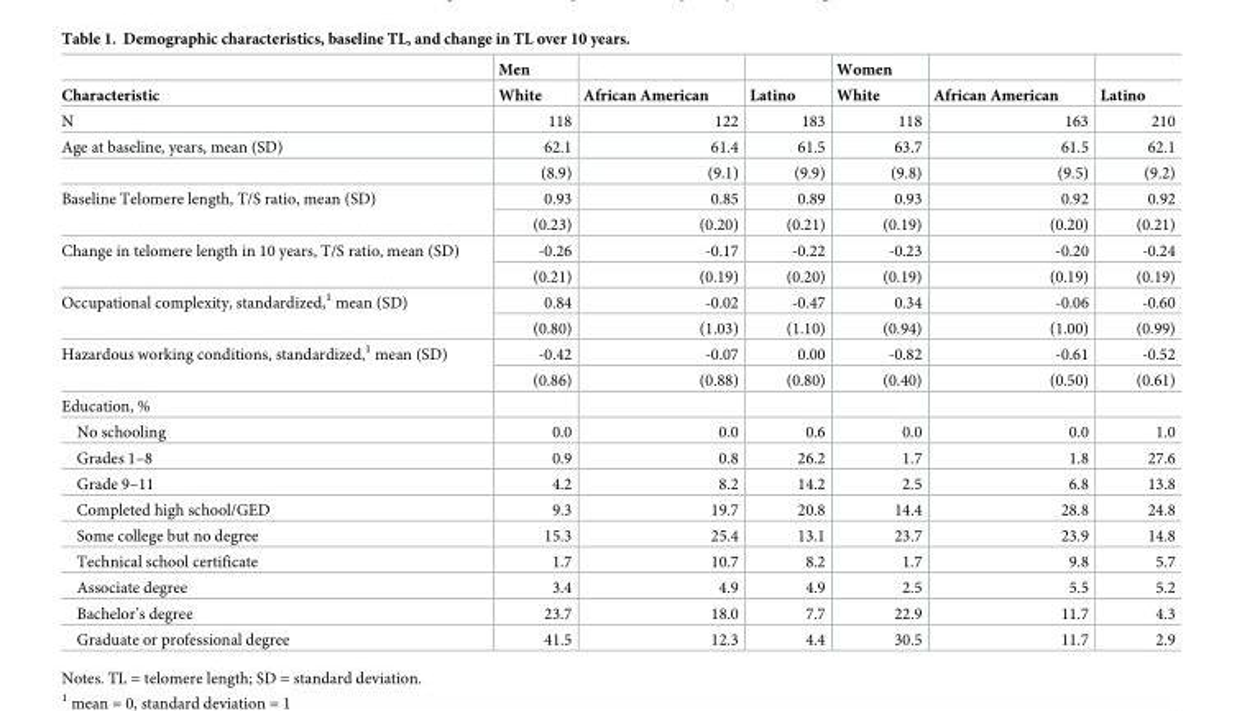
<table><thead><tr><td rowspan="2">Characteristic</td><td rowspan="2">Men White</td><td rowspan="2">African American</td><td rowspan="2">Latino</td><td rowspan="2">Women White</td><td rowspan="2">African American</td><td rowspan="2">Latino</td></tr><tr></tr></thead><tbody><tr><td>N</td><td>118</td><td>122</td><td>183</td><td>118</td><td>163</td><td>210</td></tr><tr><td rowspan="2">Age at baseline, years, mean (SD)</td><td>62.1</td><td>61.4</td><td>61.5</td><td>63.7</td><td>61.5</td><td>62.1</td></tr><tr><td>(8.9)</td><td>(9.1)</td><td>(9.9)</td><td>(9.8)</td><td>(9.5)</td><td>(9.2)</td></tr><tr><td rowspan="2">Baseline Telomere length, T/S ratio, mean (SD)</td><td>0.93</td><td>0.85</td><td>0.89</td><td>0.93</td><td>0.92</td><td>0.92</td></tr><tr><td>(0.23)</td><td>(0.20)</td><td>(0.21)</td><td>(0.19)</td><td>(0.20)</td><td>(0.21)</td></tr><tr><td rowspan="2">Change in telomere length in 10 years, T/S ratio, mean (SD)</td><td>-0.26</td><td>-0.17</td><td>-0.22</td><td>-0.23</td><td>-0.20</td><td>-0.24</td></tr><tr><td>(0.21)</td><td>(0.19)</td><td>(0.20)</td><td>(0.19)</td><td>(0.19)</td><td>(0.19)</td></tr><tr><td rowspan="2">Occupational complexity, standardized,<sup>1</sup> mean (SD)</td><td>0.84</td><td>-0.02</td><td>-0.47</td><td>0.34</td><td>-0.06</td><td>-0.60</td></tr><tr><td>(0.80)</td><td>(1.03)</td><td>(1.10)</td><td>(0.94)</td><td>(1.00)</td><td>(0.99)</td></tr><tr><td rowspan="2">Hazardous working conditions, standardized,<sup>1</sup> mean (SD)</td><td>-0.42</td><td>-0.07</td><td>0.00</td><td>-0.82</td><td>-0.61</td><td>-0.52</td></tr><tr><td>(0.86)</td><td>(0.88)</td><td>(0.80)</td><td>(0.40)</td><td>(0.50)</td><td>(0.61)</td></tr><tr><td colspan="7">Education, %</td></tr><tr><td>No schooling</td><td>0.0</td><td>0.0</td><td>0.6</td><td>0.0</td><td>0.0</td><td>1.0</td></tr><tr><td>Grades 1–8</td><td>0.9</td><td>0.8</td><td>26.2</td><td>1.7</td><td>1.8</td><td>27.6</td></tr><tr><td>Grade 9–11</td><td>4.2</td><td>8.2</td><td>14.2</td><td>2.5</td><td>6.8</td><td>13.8</td></tr><tr><td>Completed high school/GED</td><td>9.3</td><td>19.7</td><td>20.8</td><td>14.4</td><td>28.8</td><td>24.8</td></tr><tr><td>Some college but no degree</td><td>15.3</td><td>25.4</td><td>13.1</td><td>23.7</td><td>23.9</td><td>14.8</td></tr><tr><td>Technical school certificate</td><td>1.7</td><td>10.7</td><td>8.2</td><td>1.7</td><td>9.8</td><td>5.7</td></tr><tr><td>Associate degree</td><td>3.4</td><td>4.9</td><td>4.9</td><td>2.5</td><td>5.5</td><td>5.2</td></tr><tr><td>Bachelor’s degree</td><td>23.7</td><td>18.0</td><td>7.7</td><td>22.9</td><td>11.7</td><td>4.3</td></tr><tr><td>Graduate or professional degree</td><td>41.5</td><td>12.3</td><td>4.4</td><td>30.5</td><td>11.7</td><td>2.9</td></tr></tbody></table>